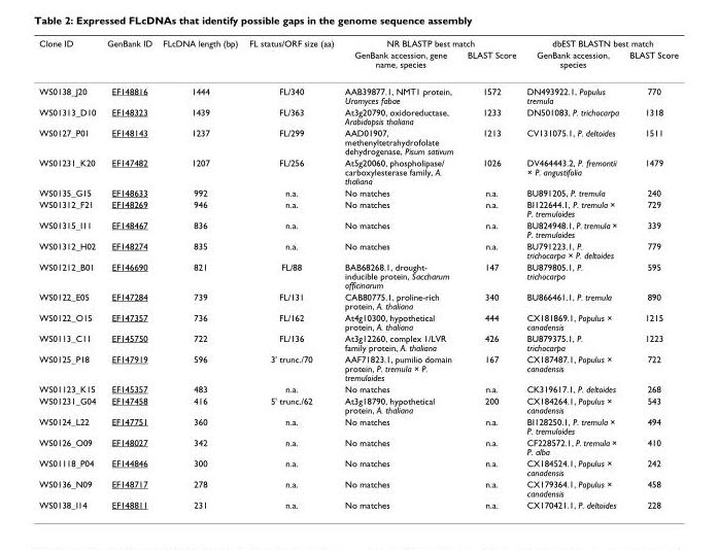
<table><thead><tr><td rowspan="2">Clone ID</td><td rowspan="2">GenBank ID</td><td rowspan="2">FLcDNA length (bp)</td><td rowspan="2">FL status/ORF size (aa)</td><td colspan="2">NR BLASTP best match</td><td colspan="2">dbEST BLASTN best match</td></tr><tr><td>GenBank accession, gene name, species</td><td>BLAST Score</td><td>GenBank accession, species</td><td>BLAST Score</td></tr></thead><tbody><tr><td>WS0138_J20</td><td>EF148816</td><td>1444</td><td>FL/340</td><td>AAB39877.1, NMT1 protein, Uromyces fabae</td><td>1572</td><td>DN493922.1, Populus tremula</td><td>770</td></tr><tr><td>WS01313_D10</td><td>EF148323</td><td>1439</td><td>FL/363</td><td>At3g20790, oxidoreductase, Arabidopsis thaliana</td><td>1233</td><td>DN501083, P. trichocarpa</td><td>1318</td></tr><tr><td>WS0127_P01</td><td>EF148143</td><td>1237</td><td>FL/299</td><td>AAD01907, methenyltetrahydrofolate dehydrogenase, Pisum sativum</td><td>1213</td><td>CV131075.1, P. deltoides</td><td>1511</td></tr><tr><td>WS01231_K20</td><td>EF147482</td><td>1207</td><td>FL/256</td><td>At5g20060, phospholipase/ carboxylesterase family, A. thaliana</td><td>1026</td><td>DV464443.2, P. fremontii × P. angustifolia</td><td>1479</td></tr><tr><td>WS0135_G15</td><td>EF148633</td><td>992</td><td>n.a.</td><td>No matches</td><td>n.a.</td><td>BU891205, P. tremula</td><td>240</td></tr><tr><td>WS01312_F21</td><td>EF148269</td><td>946</td><td>n.a.</td><td>No matches</td><td>n.a.</td><td>BI122644.1, P. tremula × P. tremuloides</td><td>729</td></tr><tr><td>WS01315_I11</td><td>EF148467</td><td>836</td><td>n.a.</td><td>No matches</td><td>n.a.</td><td>BU824948.1, P. tremula × P. tremuloides</td><td>339</td></tr><tr><td>WS01312_H02</td><td>EF148274</td><td>835</td><td>n.a.</td><td>No matches</td><td>n.a.</td><td>BU791223.1, P. trichocarpa × P. deltoides</td><td>779</td></tr><tr><td>WS01212_B01</td><td>EF146690</td><td>821</td><td>FL/88</td><td>BAB68268.1, drought- inducible protein, Saccharum officinarum</td><td>147</td><td>BU879805.1, P. trichocarpa</td><td>595</td></tr><tr><td>WS0122_E05</td><td>EF147284</td><td>739</td><td>FL/131</td><td>CAB80775.1, proline-rich protein, A. thaliana</td><td>340</td><td>BU866461.1, P. tremula</td><td>890</td></tr><tr><td>WS0122_O15</td><td>EF147357</td><td>736</td><td>FL/162</td><td>At4g10300, hypothetical protein, A. thaliana</td><td>444</td><td>CX181869.1, Populus × canadensis</td><td>1215</td></tr><tr><td>WS0113_C11</td><td>EF145750</td><td>722</td><td>FL/136</td><td>At3g12260, complex 1/LVR family protein, A. thaliana</td><td>426</td><td>BU879375.1, P. trichocarpa</td><td>1223</td></tr><tr><td>WS0125_P18</td><td>EF147919</td><td>596</td><td>3&#x27; trunc./70</td><td>AAF71823.1, pumilio domain protein, P. tremula × P. tremuloides</td><td>167</td><td>CX187487.1, Populus × canadensis</td><td>722</td></tr><tr><td>WS01123_K15</td><td>EF145357</td><td>483</td><td>n.a.</td><td>No matches</td><td>n.a.</td><td>CK319617.1, P. deltoides</td><td>268</td></tr><tr><td>WS01231_G04</td><td>EF147458</td><td>416</td><td>5&#x27; trunc./62</td><td>At3g18790, hypothetical protein, A. thaliana</td><td>200</td><td>CX184264.1, Populus × canadensis</td><td>543</td></tr><tr><td>WS0124_L22</td><td>EF147751</td><td>360</td><td>n.a.</td><td>No matches</td><td>n.a.</td><td>BI128250.1, P. tremula × P. tremuloides</td><td>494</td></tr><tr><td>WS0126_O09</td><td>EF148027</td><td>342</td><td>n.a.</td><td>No matches</td><td>n.a.</td><td>CF228572.1, P. tremula × P. alba</td><td>410</td></tr><tr><td>WS01118_P04</td><td>EF144846</td><td>300</td><td>n.a.</td><td>No matches</td><td>n.a.</td><td>CX184524.1, Populus × canadensis</td><td>242</td></tr><tr><td>WS0136_N09</td><td>EF148717</td><td>278</td><td>n.a.</td><td>No matches</td><td>n.a.</td><td>CX179364.1, Populus × canadensis</td><td>458</td></tr><tr><td>WS0138_I14</td><td>EF148811</td><td>231</td><td>n.a.</td><td>No matches</td><td>n.a.</td><td>CX170421.1, P. deltoides</td><td>228</td></tr></tbody></table>